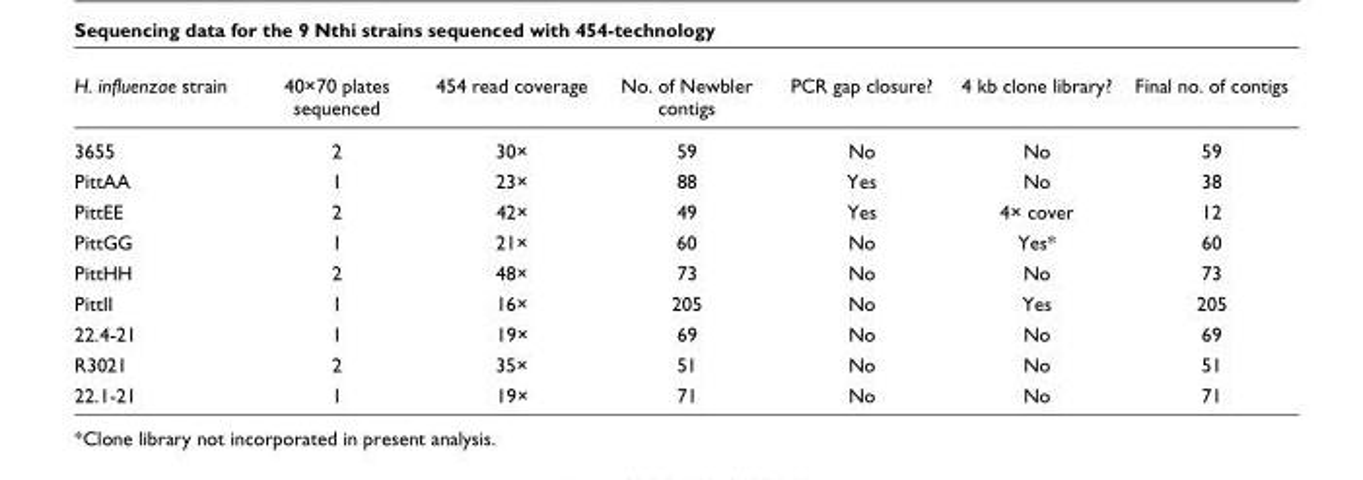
<table><thead><tr><td>H. influenzae strain</td><td>40×70 plates sequenced</td><td>454 read coverage</td><td>No. of Newbler contigs</td><td>PCR gap closure?</td><td>4 kb clone library?</td><td>Final no. of contigs</td></tr></thead><tbody><tr><td>3655</td><td>2</td><td>30×</td><td>59</td><td>No</td><td>No</td><td>59</td></tr><tr><td>PittAA</td><td>1</td><td>23×</td><td>88</td><td>Yes</td><td>No</td><td>38</td></tr><tr><td>PittEE</td><td>2</td><td>42×</td><td>49</td><td>Yes</td><td>4× cover</td><td>12</td></tr><tr><td>PittGG</td><td>1</td><td>21×</td><td>60</td><td>No</td><td>Yes*</td><td>60</td></tr><tr><td>PittHH</td><td>2</td><td>48×</td><td>73</td><td>No</td><td>No</td><td>73</td></tr><tr><td>PittII</td><td>1</td><td>16×</td><td>205</td><td>No</td><td>Yes</td><td>205</td></tr><tr><td>22.4-21</td><td>1</td><td>19×</td><td>69</td><td>No</td><td>No</td><td>69</td></tr><tr><td>R3021</td><td>2</td><td>35×</td><td>51</td><td>No</td><td>No</td><td>51</td></tr><tr><td>22.1-21</td><td>1</td><td>19×</td><td>71</td><td>No</td><td>No</td><td>71</td></tr></tbody></table>